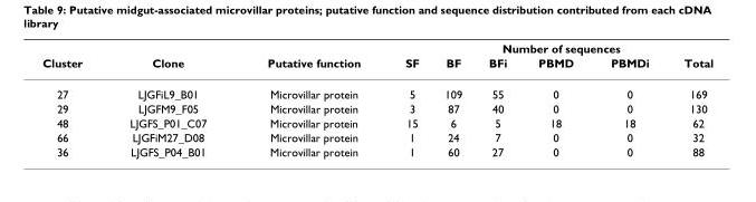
<table><thead><tr><td rowspan="2">Cluster</td><td rowspan="2">Clone</td><td rowspan="2">Putative function</td><td colspan="6">Number of sequences</td></tr><tr><td>SF</td><td>BF</td><td>BFi</td><td>PBMD</td><td>PBMDi</td><td>Total</td></tr></thead><tbody><tr><td>27</td><td>LJGFiL9_B01</td><td>Microvillar protein</td><td>5</td><td>109</td><td>55</td><td>0</td><td>0</td><td>169</td></tr><tr><td>29</td><td>LJGFM9_F05</td><td>Microvillar protein</td><td>3</td><td>87</td><td>40</td><td>0</td><td>0</td><td>130</td></tr><tr><td>48</td><td>LJGFS_P01_C07</td><td>Microvillar protein</td><td>15</td><td>6</td><td>5</td><td>18</td><td>18</td><td>62</td></tr><tr><td>66</td><td>LJGFiM27_D08</td><td>Microvillar protein</td><td>1</td><td>24</td><td>7</td><td>0</td><td>0</td><td>32</td></tr><tr><td>36</td><td>LJGFS_P04_B01</td><td>Microvillar protein</td><td>1</td><td>60</td><td>27</td><td>0</td><td>0</td><td>88</td></tr></tbody></table>